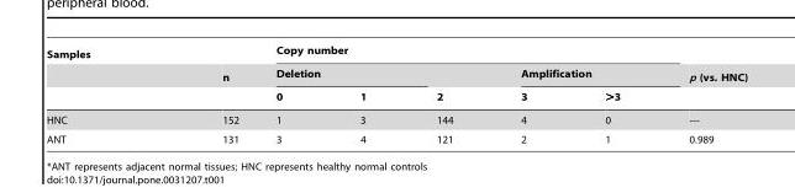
<table><thead><tr><td rowspan="3">Samples</td><td rowspan="3">n</td><td colspan="5">Copy number</td><td rowspan="3">p (vs. HNC)</td></tr><tr><td colspan="2">Deletion</td><td rowspan="2">2</td><td colspan="2">Amplification</td></tr><tr><td>0</td><td>1</td><td>3</td><td>&gt;3</td></tr></thead><tbody><tr><td>HNC</td><td>152</td><td>1</td><td>3</td><td>144</td><td>4</td><td>0</td><td>---</td></tr><tr><td>ANT</td><td>131</td><td>3</td><td>4</td><td>121</td><td>2</td><td>1</td><td>0.989</td></tr></tbody></table>